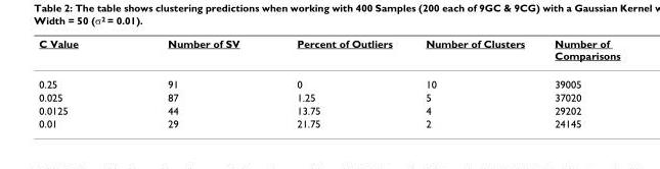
<table><thead><tr><td>C Value</td><td>Number of SV</td><td>Percent of Outliers</td><td>Number of Clusters</td><td>Number of Comparisons</td></tr></thead><tbody><tr><td>0.25</td><td>91</td><td>0</td><td>10</td><td>39005</td></tr><tr><td>0.025</td><td>87</td><td>1.25</td><td>5</td><td>37020</td></tr><tr><td>0.0125</td><td>44</td><td>13.75</td><td>4</td><td>29202</td></tr><tr><td>0.01</td><td>29</td><td>21.75</td><td>2</td><td>24145</td></tr></tbody></table>